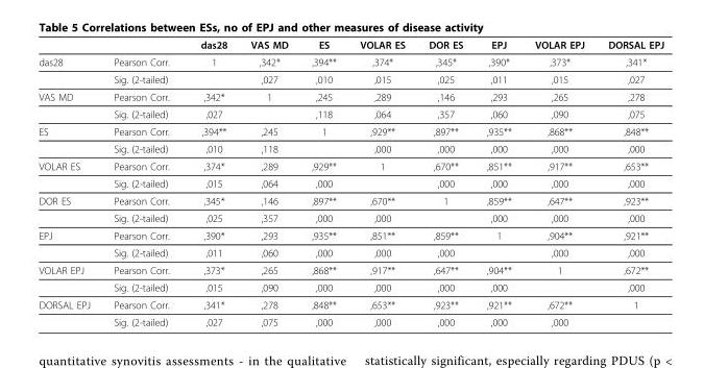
<table><thead><tr><td></td><td></td><td>das28</td><td>VAS MD</td><td>ES</td><td>VOLAR ES</td><td>DOR ES</td><td>EPJ</td><td>VOLAR EPJ</td><td>DORSAL EPJ</td></tr></thead><tbody><tr><td rowspan="2">das28</td><td>Pearson Corr.</td><td>1</td><td>,342*</td><td>,394**</td><td>,374*</td><td>,345*</td><td>,390*</td><td>,373*</td><td>,341*</td></tr><tr><td>Sig. (2-tailed)</td><td></td><td>,027</td><td>,010</td><td>,015</td><td>,025</td><td>,011</td><td>,015</td><td>,027</td></tr><tr><td rowspan="2">VAS MD</td><td>Pearson Corr.</td><td>,342*</td><td>1</td><td>,245</td><td>,289</td><td>,146</td><td>,293</td><td>,265</td><td>,278</td></tr><tr><td>Sig. (2-tailed)</td><td>,027</td><td></td><td>,118</td><td>,064</td><td>,357</td><td>,060</td><td>,090</td><td>,075</td></tr><tr><td rowspan="2">ES</td><td>Pearson Corr.</td><td>,394**</td><td>,245</td><td>1</td><td>,929**</td><td>,897**</td><td>,935**</td><td>,868**</td><td>,848**</td></tr><tr><td>Sig. (2-tailed)</td><td>,010</td><td>,118</td><td></td><td>,000</td><td>,000</td><td>,000</td><td>,000</td><td>,000</td></tr><tr><td rowspan="2">VOLAR ES</td><td>Pearson Corr.</td><td>,374*</td><td>,289</td><td>,929**</td><td>1</td><td>,670**</td><td>,851**</td><td>,917**</td><td>,653**</td></tr><tr><td>Sig. (2-tailed)</td><td>,015</td><td>,064</td><td>,000</td><td></td><td>,000</td><td>,000</td><td>,000</td><td>,000</td></tr><tr><td rowspan="2">DOR ES</td><td>Pearson Corr.</td><td>,345*</td><td>,146</td><td>,897**</td><td>,670**</td><td>1</td><td>,859**</td><td>,647**</td><td>,923**</td></tr><tr><td>Sig. (2-tailed)</td><td>,025</td><td>,357</td><td>,000</td><td>,000</td><td></td><td>,000</td><td>,000</td><td>,000</td></tr><tr><td rowspan="2">EPJ</td><td>Pearson Corr.</td><td>,390*</td><td>,293</td><td>,935**</td><td>,851**</td><td>,859**</td><td>1</td><td>,904**</td><td>,921**</td></tr><tr><td>Sig. (2-tailed)</td><td>,011</td><td>,060</td><td>,000</td><td>,000</td><td>,000</td><td></td><td>,000</td><td>,000</td></tr><tr><td rowspan="2">VOLAR EPJ</td><td>Pearson Corr.</td><td>,373*</td><td>,265</td><td>,868**</td><td>,917**</td><td>,647**</td><td>,904**</td><td>1</td><td>,672**</td></tr><tr><td>Sig. (2-tailed)</td><td>,015</td><td>,090</td><td>,000</td><td>,000</td><td>,000</td><td>,000</td><td></td><td>,000</td></tr><tr><td rowspan="2">DORSAL EPJ</td><td>Pearson Corr.</td><td>,341*</td><td>,278</td><td>,848**</td><td>,653**</td><td>,923**</td><td>,921**</td><td>,672**</td><td>1</td></tr><tr><td>Sig. (2-tailed)</td><td>,027</td><td>,075</td><td>,000</td><td>,000</td><td>,000</td><td>,000</td><td>,000</td><td></td></tr></tbody></table>